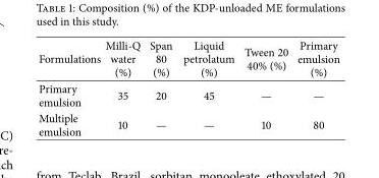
<table><thead><tr><td>Formulations</td><td>Milli-Q water (%)</td><td>Span 80 (%)</td><td>Liquid petrolatum (%)</td><td>Tween 20 40% (%)</td><td>Primary emulsion (%)</td></tr></thead><tbody><tr><td>Primary emulsion</td><td>35</td><td>20</td><td>45</td><td>—</td><td>—</td></tr><tr><td>Multiple emulsion</td><td>10</td><td>—</td><td>—</td><td>10</td><td>80</td></tr></tbody></table>